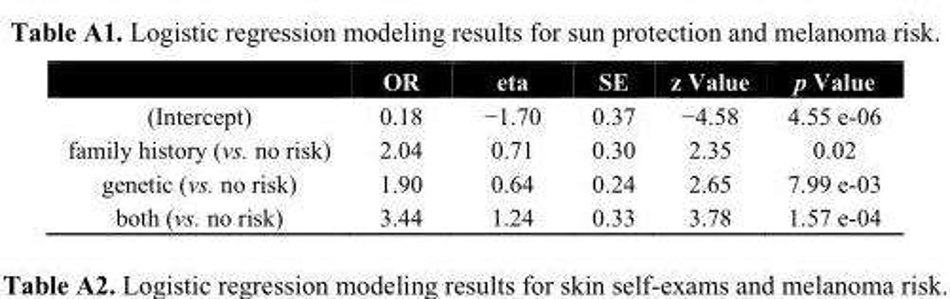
<table><thead><tr><td></td><td>OR</td><td>eta</td><td>SE</td><td>z Value</td><td>p Value</td></tr></thead><tbody><tr><td>(Intercept)</td><td>0.18</td><td>−1.70</td><td>0.37</td><td>−4.58</td><td>4.55 e-06</td></tr><tr><td>family history (vs. no risk)</td><td>2.04</td><td>0.71</td><td>0.30</td><td>2.35</td><td>0.02</td></tr><tr><td>genetic (vs. no risk)</td><td>1.90</td><td>0.64</td><td>0.24</td><td>2.65</td><td>7.99 e-03</td></tr><tr><td>both (vs. no risk)</td><td>3.44</td><td>1.24</td><td>0.33</td><td>3.78</td><td>1.57 e-04</td></tr></tbody></table>